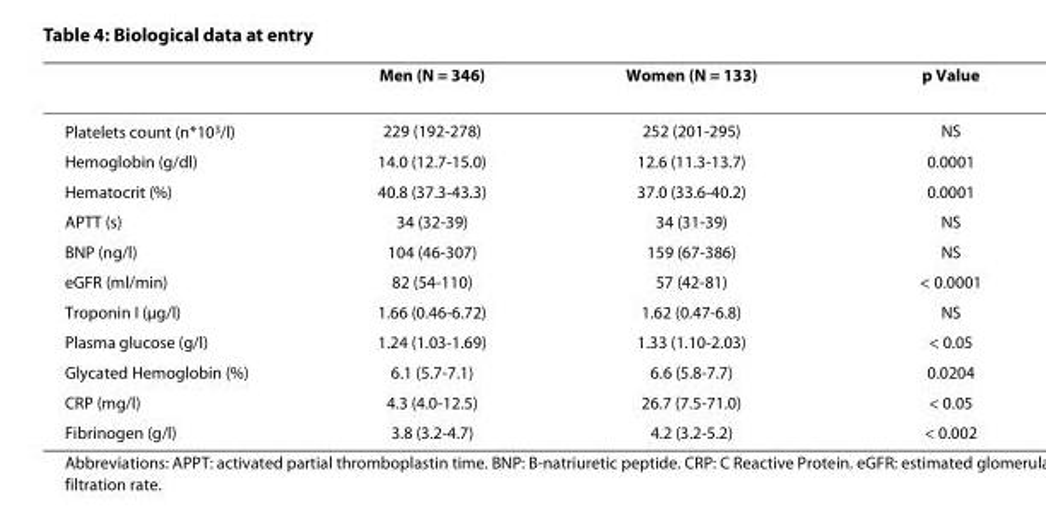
<table><thead><tr><td></td><td>Men (N = 346)</td><td>Women (N = 133)</td><td>p Value</td></tr></thead><tbody><tr><td>Platelets count (n*10<sup>3</sup>/l)</td><td>229 (192-278)</td><td>252 (201-295)</td><td>NS</td></tr><tr><td>Hemoglobin (g/dl)</td><td>14.0 (12.7-15.0)</td><td>12.6 (11.3-13.7)</td><td>0.0001</td></tr><tr><td>Hematocrit (%)</td><td>40.8 (37.3-43.3)</td><td>37.0 (33.6-40.2)</td><td>0.0001</td></tr><tr><td>APTT (s)</td><td>34 (32-39)</td><td>34 (31-39)</td><td>NS</td></tr><tr><td>BNP (ng/l)</td><td>104 (46-307)</td><td>159 (67-386)</td><td>NS</td></tr><tr><td>eGFR (ml/min)</td><td>82 (54-110)</td><td>57 (42-81)</td><td>&lt; 0.0001</td></tr><tr><td>Troponin I (μg/l)</td><td>1.66 (0.46-6.72)</td><td>1.62 (0.47-6.8)</td><td>NS</td></tr><tr><td>Plasma glucose (g/l)</td><td>1.24 (1.03-1.69)</td><td>1.33 (1.10-2.03)</td><td>&lt; 0.05</td></tr><tr><td>Glycated Hemoglobin (%)</td><td>6.1 (5.7-7.1)</td><td>6.6 (5.8-7.7)</td><td>0.0204</td></tr><tr><td>CRP (mg/l)</td><td>4.3 (4.0-12.5)</td><td>26.7 (7.5-71.0)</td><td>&lt; 0.05</td></tr><tr><td>Fibrinogen (g/l)</td><td>3.8 (3.2-4.7)</td><td>4.2 (3.2-5.2)</td><td>&lt; 0.002</td></tr></tbody></table>